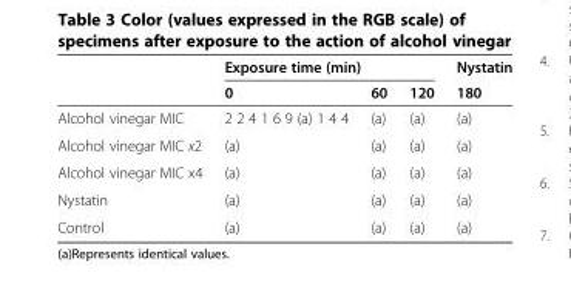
<table><thead><tr><td rowspan="2"></td><td colspan="3">Exposure time (min)</td><td rowspan="2">Nystatin 180</td></tr><tr><td>0</td><td>60</td><td>120</td></tr></thead><tbody><tr><td>Alcohol vinegar MIC</td><td>2 2 4 1 6 9 (a) 1 4 4</td><td>(a)</td><td>(a)</td><td>(a)</td></tr><tr><td>Alcohol vinegar MIC x2</td><td>(a)</td><td>(a)</td><td>(a)</td><td>(a)</td></tr><tr><td>Alcohol vinegar MIC x4</td><td>(a)</td><td>(a)</td><td>(a)</td><td>(a)</td></tr><tr><td>Nystatin</td><td>(a)</td><td>(a)</td><td>(a)</td><td>(a)</td></tr><tr><td>Control</td><td>(a)</td><td>(a)</td><td>(a)</td><td>(a)</td></tr></tbody></table>